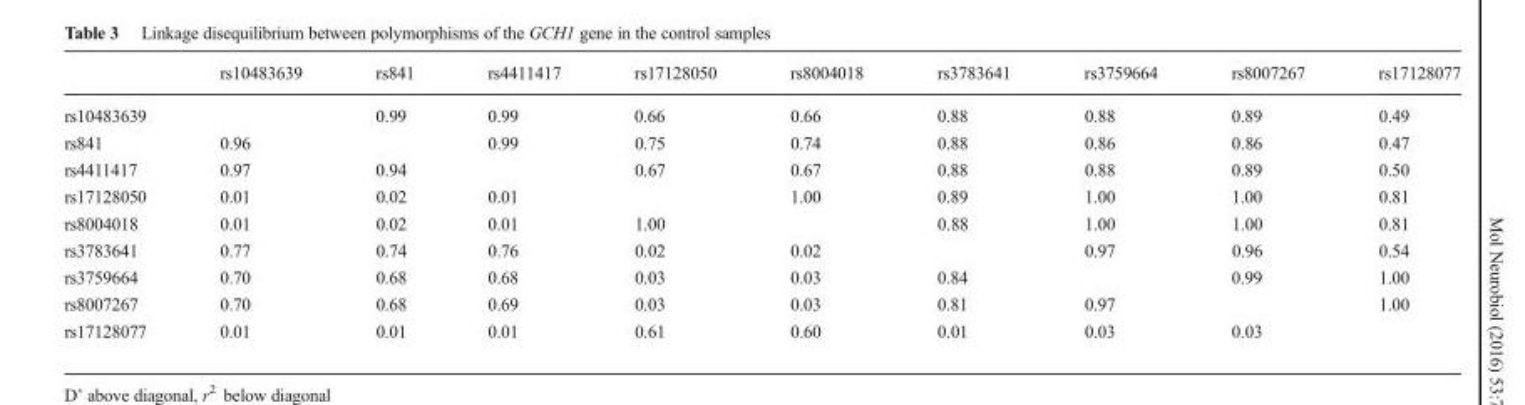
<table><thead><tr><td></td><td>rs10483639</td><td>rs841</td><td>rs4411417</td><td>rs17128050</td><td>rs8004018</td><td>rs3783641</td><td>rs3759664</td><td>rs8007267</td><td>rs17128077</td></tr></thead><tbody><tr><td>rs10483639</td><td></td><td>0.99</td><td>0.99</td><td>0.66</td><td>0.66</td><td>0.88</td><td>0.88</td><td>0.89</td><td>0.49</td></tr><tr><td>rs841</td><td>0.96</td><td></td><td>0.99</td><td>0.75</td><td>0.74</td><td>0.88</td><td>0.86</td><td>0.86</td><td>0.47</td></tr><tr><td>rs4411417</td><td>0.97</td><td>0.94</td><td></td><td>0.67</td><td>0.67</td><td>0.88</td><td>0.88</td><td>0.89</td><td>0.50</td></tr><tr><td>rs17128050</td><td>0.01</td><td>0.02</td><td>0.01</td><td></td><td>1.00</td><td>0.89</td><td>1.00</td><td>1.00</td><td>0.81</td></tr><tr><td>rs8004018</td><td>0.01</td><td>0.02</td><td>0.01</td><td>1.00</td><td></td><td>0.88</td><td>1.00</td><td>1.00</td><td>0.81</td></tr><tr><td>rs3783641</td><td>0.77</td><td>0.74</td><td>0.76</td><td>0.02</td><td>0.02</td><td></td><td>0.97</td><td>0.96</td><td>0.54</td></tr><tr><td>rs3759664</td><td>0.70</td><td>0.68</td><td>0.68</td><td>0.03</td><td>0.03</td><td>0.84</td><td></td><td>0.99</td><td>1.00</td></tr><tr><td>rs8007267</td><td>0.70</td><td>0.68</td><td>0.69</td><td>0.03</td><td>0.03</td><td>0.81</td><td>0.97</td><td></td><td>1.00</td></tr><tr><td>rs17128077</td><td>0.01</td><td>0.01</td><td>0.01</td><td>0.61</td><td>0.60</td><td>0.01</td><td>0.03</td><td>0.03</td><td></td></tr></tbody></table>